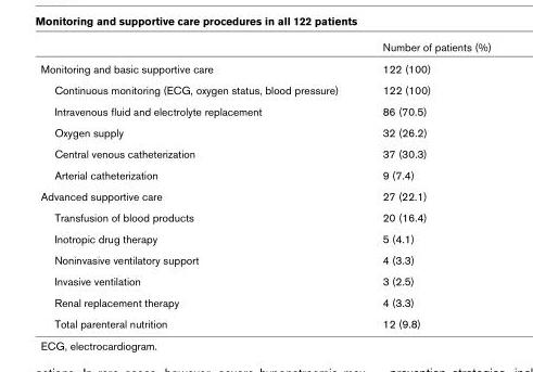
<table><thead><tr><td></td><td>Number of patients (%)</td></tr></thead><tbody><tr><td>Monitoring and basic supportive care</td><td>122 (100)</td></tr><tr><td>Continuous monitoring (ECG, oxygen status, blood pressure)</td><td>122 (100)</td></tr><tr><td>Intravenous fluid and electrolyte replacement</td><td>86 (70.5)</td></tr><tr><td>Oxygen supply</td><td>32 (26.2)</td></tr><tr><td>Central venous catheterization</td><td>37 (30.3)</td></tr><tr><td>Arterial catheterization</td><td>9 (7.4)</td></tr><tr><td>Advanced supportive care</td><td>27 (22.1)</td></tr><tr><td>Transfusion of blood products</td><td>20 (16.4)</td></tr><tr><td>Inotropic drug therapy</td><td>5 (4.1)</td></tr><tr><td>Noninvasive ventilatory support</td><td>4 (3.3)</td></tr><tr><td>Invasive ventilation</td><td>3 (2.5)</td></tr><tr><td>Renal replacement therapy</td><td>4 (3.3)</td></tr><tr><td>Total parenteral nutrition</td><td>12 (9.8)</td></tr></tbody></table>